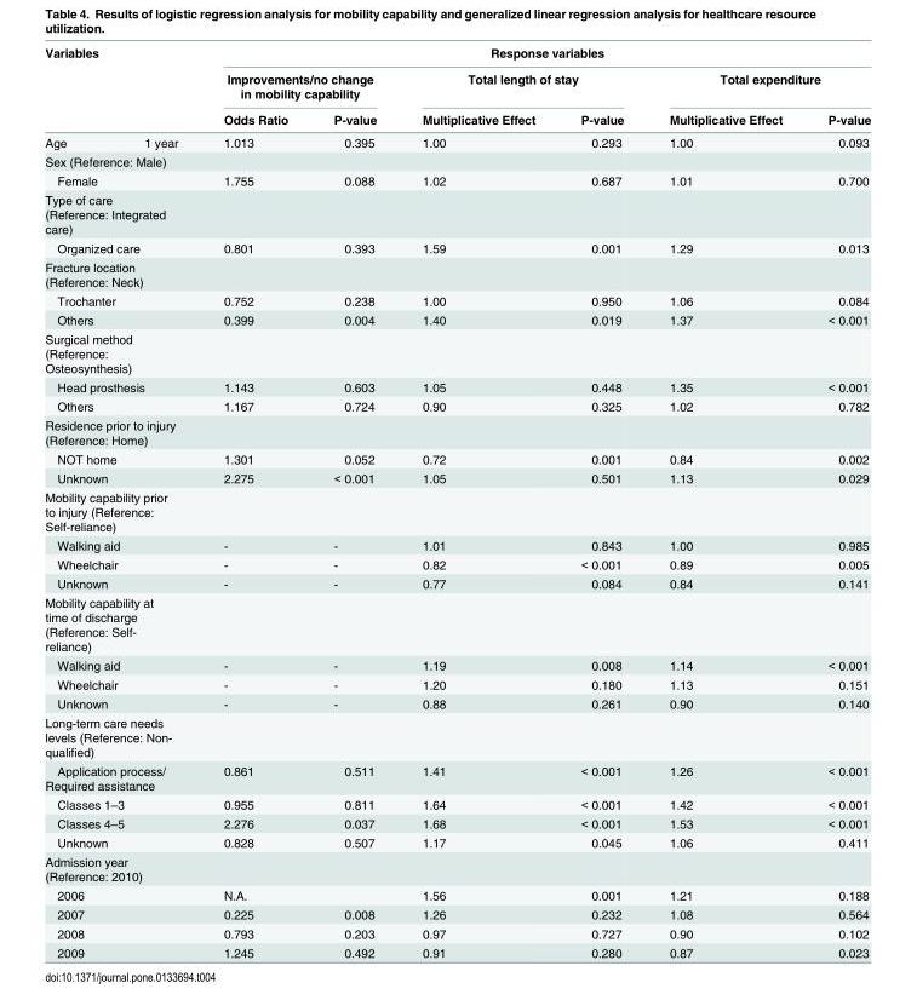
<table><thead><tr><td rowspan="3">Variables</td><td rowspan="3"></td><td colspan="6">Response variables</td></tr><tr><td colspan="2">Improvements/no change in mobility capability</td><td colspan="2">Total length of stay</td><td colspan="2">Total expenditure</td></tr><tr><td>Odds Ratio</td><td>P-value</td><td>Multiplicative Effect</td><td>P-value</td><td>Multiplicative Effect</td><td>P-value</td></tr></thead><tbody><tr><td>Age</td><td>1 year</td><td>1.013</td><td>0.395</td><td>1.00</td><td>0.293</td><td>1.00</td><td>0.093</td></tr><tr><td colspan="8">Sex (Reference: Male)</td></tr><tr><td colspan="2">Female</td><td>1.755</td><td>0.088</td><td>1.02</td><td>0.687</td><td>1.01</td><td>0.700</td></tr><tr><td colspan="8">Type of care (Reference: Integrated care)</td></tr><tr><td colspan="2">Organized care</td><td>0.801</td><td>0.393</td><td>1.59</td><td>0.001</td><td>1.29</td><td>0.013</td></tr><tr><td colspan="8">Fracture location (Reference: Neck)</td></tr><tr><td colspan="2">Trochanter</td><td>0.752</td><td>0.238</td><td>1.00</td><td>0.950</td><td>1.06</td><td>0.084</td></tr><tr><td colspan="2">Others</td><td>0.399</td><td>0.004</td><td>1.40</td><td>0.019</td><td>1.37</td><td>&lt; 0.001</td></tr><tr><td colspan="8">Surgical method (Reference: Osteosynthesis)</td></tr><tr><td colspan="2">Head prosthesis</td><td>1.143</td><td>0.603</td><td>1.05</td><td>0.448</td><td>1.35</td><td>&lt; 0.001</td></tr><tr><td colspan="2">Others</td><td>1.167</td><td>0.724</td><td>0.90</td><td>0.325</td><td>1.02</td><td>0.782</td></tr><tr><td colspan="8">Residence prior to injury (Reference: Home)</td></tr><tr><td colspan="2">NOT home</td><td>1.301</td><td>0.052</td><td>0.72</td><td>0.001</td><td>0.84</td><td>0.002</td></tr><tr><td colspan="2">Unknown</td><td>2.275</td><td>&lt; 0.001</td><td>1.05</td><td>0.501</td><td>1.13</td><td>0.029</td></tr><tr><td colspan="8">Mobility capability prior to injury (Reference: Self-reliance)</td></tr><tr><td colspan="2">Walking aid</td><td>-</td><td>-</td><td>1.01</td><td>0.843</td><td>1.00</td><td>0.985</td></tr><tr><td colspan="2">Wheelchair</td><td>-</td><td>-</td><td>0.82</td><td>&lt; 0.001</td><td>0.89</td><td>0.005</td></tr><tr><td colspan="2">Unknown</td><td>-</td><td>-</td><td>0.77</td><td>0.084</td><td>0.84</td><td>0.141</td></tr><tr><td colspan="8">Mobility capability at time of discharge (Reference: Self- reliance)</td></tr><tr><td colspan="2">Walking aid</td><td>-</td><td>-</td><td>1.19</td><td>0.008</td><td>1.14</td><td>&lt; 0.001</td></tr><tr><td colspan="2">Wheelchair</td><td>-</td><td>-</td><td>1.20</td><td>0.180</td><td>1.13</td><td>0.151</td></tr><tr><td colspan="2">Unknown</td><td>-</td><td>-</td><td>0.88</td><td>0.261</td><td>0.90</td><td>0.140</td></tr><tr><td colspan="8">Long-term care needs levels (Reference: Non- qualified)</td></tr><tr><td colspan="2">Application process/ Required assistance</td><td>0.861</td><td>0.511</td><td>1.41</td><td>&lt; 0.001</td><td>1.26</td><td>&lt; 0.001</td></tr><tr><td colspan="2">Classes 1–3</td><td>0.955</td><td>0.811</td><td>1.64</td><td>&lt; 0.001</td><td>1.42</td><td>&lt; 0.001</td></tr><tr><td colspan="2">Classes 4–5</td><td>2.276</td><td>0.037</td><td>1.68</td><td>&lt; 0.001</td><td>1.53</td><td>&lt; 0.001</td></tr><tr><td colspan="2">Unknown</td><td>0.828</td><td>0.507</td><td>1.17</td><td>0.045</td><td>1.06</td><td>0.411</td></tr><tr><td colspan="8">Admission year (Reference: 2010)</td></tr><tr><td colspan="2">2006</td><td>N.A.</td><td></td><td>1.56</td><td>0.001</td><td>1.21</td><td>0.188</td></tr><tr><td colspan="2">2007</td><td>0.225</td><td>0.008</td><td>1.26</td><td>0.232</td><td>1.08</td><td>0.564</td></tr><tr><td colspan="2">2008</td><td>0.793</td><td>0.203</td><td>0.97</td><td>0.727</td><td>0.90</td><td>0.102</td></tr><tr><td colspan="2">2009</td><td>1.245</td><td>0.492</td><td>0.91</td><td>0.280</td><td>0.87</td><td>0.023</td></tr></tbody></table>